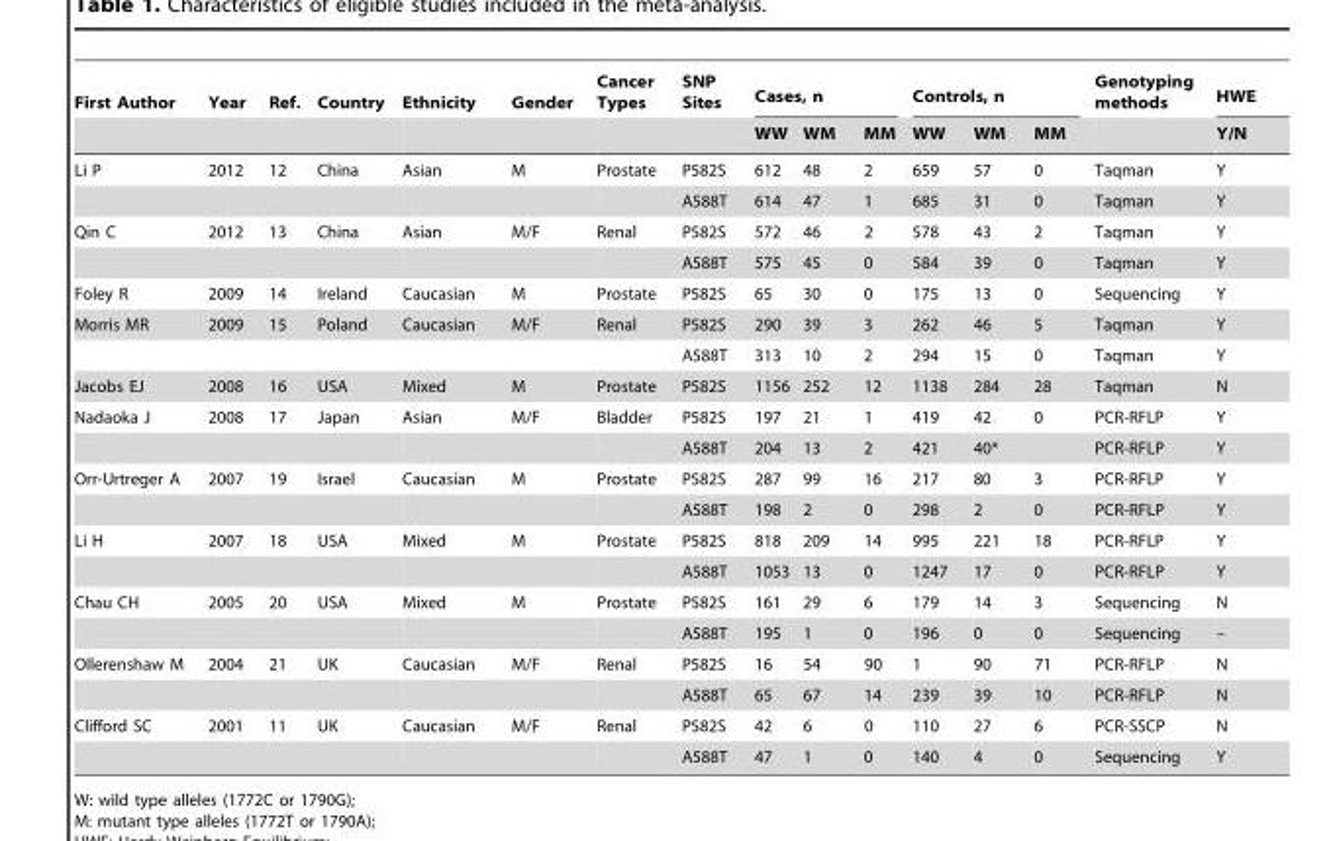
<table><thead><tr><td rowspan="2">First Author</td><td rowspan="2">Year</td><td rowspan="2">Ref.</td><td rowspan="2">Country</td><td rowspan="2">Ethnicity</td><td rowspan="2">Gender</td><td rowspan="2">Cancer Types</td><td rowspan="2">SNP Sites</td><td colspan="3">Cases, n</td><td colspan="3">Controls, n</td><td rowspan="2">Genotyping methods</td><td rowspan="2">HWE Y/N</td></tr><tr><td>WW</td><td>WM</td><td>MM</td><td>WW</td><td>WM</td><td>MM</td></tr></thead><tbody><tr><td rowspan="2">Li P</td><td>2012</td><td>12</td><td>China</td><td>Asian</td><td>M</td><td>Prostate</td><td>P582S</td><td>612</td><td>48</td><td>2</td><td>659</td><td>57</td><td>0</td><td>Taqman</td><td>Y</td></tr><tr><td></td><td></td><td></td><td></td><td></td><td></td><td>A588T</td><td>614</td><td>47</td><td>1</td><td>685</td><td>31</td><td>0</td><td>Taqman</td><td>Y</td></tr><tr><td rowspan="2">Qin C</td><td>2012</td><td>13</td><td>China</td><td>Asian</td><td>M/F</td><td>Renal</td><td>P582S</td><td>572</td><td>46</td><td>2</td><td>578</td><td>43</td><td>2</td><td>Taqman</td><td>Y</td></tr><tr><td></td><td></td><td></td><td></td><td></td><td></td><td>A588T</td><td>575</td><td>45</td><td>0</td><td>584</td><td>39</td><td>0</td><td>Taqman</td><td>Y</td></tr><tr><td>Foley R</td><td>2009</td><td>14</td><td>Ireland</td><td>Caucasian</td><td>M</td><td>Prostate</td><td>P582S</td><td>65</td><td>30</td><td>0</td><td>175</td><td>13</td><td>0</td><td>Sequencing</td><td>Y</td></tr><tr><td rowspan="2">Morris MR</td><td>2009</td><td>15</td><td>Poland</td><td>Caucasian</td><td>M/F</td><td>Renal</td><td>P582S</td><td>290</td><td>39</td><td>3</td><td>262</td><td>46</td><td>5</td><td>Taqman</td><td>Y</td></tr><tr><td></td><td></td><td></td><td></td><td></td><td></td><td>A588T</td><td>313</td><td>10</td><td>2</td><td>294</td><td>15</td><td>0</td><td>Taqman</td><td>Y</td></tr><tr><td>Jacobs EJ</td><td>2008</td><td>16</td><td>USA</td><td>Mixed</td><td>M</td><td>Prostate</td><td>P582S</td><td>1156</td><td>252</td><td>12</td><td>1138</td><td>284</td><td>28</td><td>Taqman</td><td>N</td></tr><tr><td rowspan="2">Nadaoka J</td><td>2008</td><td>17</td><td>Japan</td><td>Asian</td><td>M/F</td><td>Bladder</td><td>P582S</td><td>197</td><td>21</td><td>1</td><td>419</td><td>42</td><td>0</td><td>PCR-RFLP</td><td>Y</td></tr><tr><td></td><td></td><td></td><td></td><td></td><td></td><td>A588T</td><td>204</td><td>13</td><td>2</td><td>421</td><td colspan="2">40*</td><td>PCR-RFLP</td><td>Y</td></tr><tr><td rowspan="2">Orr-Urtreger A</td><td>2007</td><td>19</td><td>Israel</td><td>Caucasian</td><td>M</td><td>Prostate</td><td>P582S</td><td>287</td><td>99</td><td>16</td><td>217</td><td>80</td><td>3</td><td>PCR-RFLP</td><td>Y</td></tr><tr><td></td><td></td><td></td><td></td><td></td><td></td><td>A588T</td><td>198</td><td>2</td><td>0</td><td>298</td><td>2</td><td>0</td><td>PCR-RFLP</td><td>Y</td></tr><tr><td rowspan="2">Li H</td><td>2007</td><td>18</td><td>USA</td><td>Mixed</td><td>M</td><td>Prostate</td><td>P582S</td><td>818</td><td>209</td><td>14</td><td>995</td><td>221</td><td>18</td><td>PCR-RFLP</td><td>Y</td></tr><tr><td></td><td></td><td></td><td></td><td></td><td></td><td>A588T</td><td>1053</td><td>13</td><td>0</td><td>1247</td><td>17</td><td>0</td><td>PCR-RFLP</td><td>Y</td></tr><tr><td rowspan="2">Chau CH</td><td>2005</td><td>20</td><td>USA</td><td>Mixed</td><td>M</td><td>Prostate</td><td>P582S</td><td>161</td><td>29</td><td>6</td><td>179</td><td>14</td><td>3</td><td>Sequencing</td><td>N</td></tr><tr><td></td><td></td><td></td><td></td><td></td><td></td><td>A588T</td><td>195</td><td>1</td><td>0</td><td>196</td><td>0</td><td>0</td><td>Sequencing</td><td>–</td></tr><tr><td rowspan="2">Ollerenshaw M</td><td>2004</td><td>21</td><td>UK</td><td>Caucasian</td><td>M/F</td><td>Renal</td><td>P582S</td><td>16</td><td>54</td><td>90</td><td>1</td><td>90</td><td>71</td><td>PCR-RFLP</td><td>N</td></tr><tr><td></td><td></td><td></td><td></td><td></td><td></td><td>A588T</td><td>65</td><td>67</td><td>14</td><td>239</td><td>39</td><td>10</td><td>PCR-RFLP</td><td>N</td></tr><tr><td rowspan="2">Clifford SC</td><td>2001</td><td>11</td><td>UK</td><td>Caucasian</td><td>M/F</td><td>Renal</td><td>P582S</td><td>42</td><td>6</td><td>0</td><td>110</td><td>27</td><td>6</td><td>PCR-SSCP</td><td>N</td></tr><tr><td></td><td></td><td></td><td></td><td></td><td></td><td>A588T</td><td>47</td><td>1</td><td>0</td><td>140</td><td>4</td><td>0</td><td>Sequencing</td><td>Y</td></tr></tbody></table>